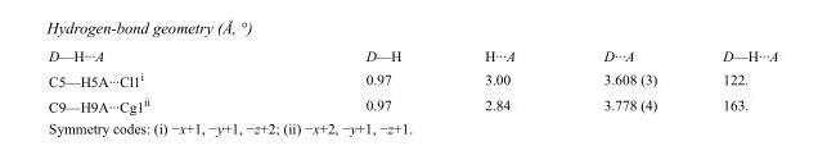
<table><tbody><tr><td>D—H···A</td><td>D—H</td><td>H···A</td><td>D···A</td><td>D—H···A</td></tr><tr><td>C5—H5A···Cl1<sup>i</sup></td><td>0.97</td><td>3.00</td><td>3.608 (3)</td><td>122.</td></tr><tr><td>C9—H9A···Cg1<sup>ii</sup></td><td>0.97</td><td>2.84</td><td>3.778 (4)</td><td>163.</td></tr></tbody></table>